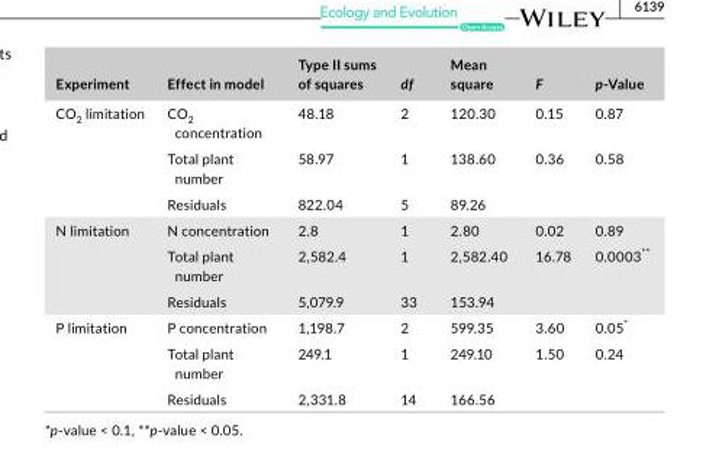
<table><thead><tr><td>Experiment</td><td>Effect in model</td><td>Type II sums of squares</td><td>df</td><td>Mean square</td><td>F</td><td>p- Value</td></tr></thead><tbody><tr><td rowspan="3">CO<sub>2</sub> limitation</td><td>CO<sub>2</sub> concentration</td><td>48.18</td><td>2</td><td>120.30</td><td>0.15</td><td>0.87</td></tr><tr><td>Total plant number</td><td>58.97</td><td>1</td><td>138.60</td><td>0.36</td><td>0.58</td></tr><tr><td>Residuals</td><td>822.04</td><td>5</td><td>89.26</td><td></td><td></td></tr><tr><td rowspan="3">N limitation</td><td>N concentration</td><td>2.8</td><td>1</td><td>2.80</td><td>0.02</td><td>0.89</td></tr><tr><td>Total plant number</td><td>2,582.4</td><td>1</td><td>2,582.40</td><td>16.78</td><td>0.0003**</td></tr><tr><td>Residuals</td><td>5,079.9</td><td>33</td><td>153.94</td><td></td><td></td></tr><tr><td rowspan="3">P limitation</td><td>P concentration</td><td>1,198.7</td><td>2</td><td>599.35</td><td>3.60</td><td>0.05*</td></tr><tr><td>Total plant number</td><td>249.1</td><td>1</td><td>249.10</td><td>1.50</td><td>0.24</td></tr><tr><td>Residuals</td><td>2,331.8</td><td>14</td><td>166.56</td><td></td><td></td></tr></tbody></table>